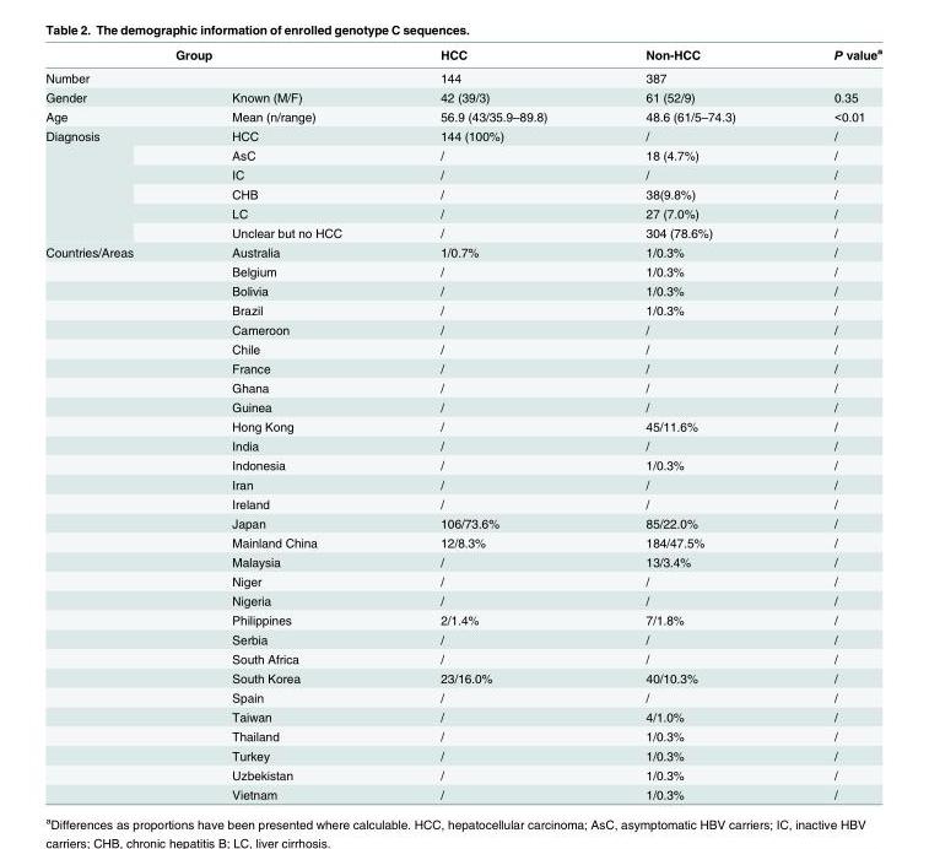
<table><thead><tr><td rowspan="2" colspan="2">Group Number</td><td rowspan="3">HCC 144 42 (39/3)</td><td rowspan="3">Non-HCC 387 61 (52/9)</td><td rowspan="3">P value<sup>a</sup> 0.35</td></tr><tr></tr><tr><td>Gender</td><td>Known (M/F)</td></tr></thead><tbody><tr><td>Age</td><td>Mean (n/range)</td><td>56.9 (43/35.9–89.8)</td><td>48.6 (61/5–74.3)</td><td>&lt;0.01</td></tr><tr><td rowspan="6">Diagnosis</td><td>HCC</td><td>144 (100%)</td><td>/</td><td>/</td></tr><tr><td>AsC</td><td>/</td><td>18 (4.7%)</td><td>/</td></tr><tr><td>IC</td><td>/</td><td>/</td><td>/</td></tr><tr><td>CHB</td><td>/</td><td>38(9.8%)</td><td>/</td></tr><tr><td>LC</td><td>/</td><td>27 (7.0%)</td><td>/</td></tr><tr><td>Unclear but no HCC</td><td>/</td><td>304 (78.6%)</td><td>/</td></tr><tr><td rowspan="29">Countries/Areas</td><td>Australia</td><td>1/0.7%</td><td>1/0.3%</td><td>/</td></tr><tr><td>Belgium</td><td>/</td><td>1/0.3%</td><td>/</td></tr><tr><td>Bolivia</td><td>/</td><td>1/0.3%</td><td>/</td></tr><tr><td>Brazil</td><td>/</td><td>1/0.3%</td><td>/</td></tr><tr><td>Cameroon</td><td>/</td><td>/</td><td>/</td></tr><tr><td>Chile</td><td>/</td><td>/</td><td>/</td></tr><tr><td>France</td><td>/</td><td>/</td><td>/</td></tr><tr><td>Ghana</td><td>/</td><td>/</td><td>/</td></tr><tr><td>Guinea</td><td>/</td><td>/</td><td>/</td></tr><tr><td>Hong Kong</td><td>/</td><td>45/11.6%</td><td>/</td></tr><tr><td>India</td><td>/</td><td>/</td><td>/</td></tr><tr><td>Indonesia</td><td>/</td><td>1/0.3%</td><td>/</td></tr><tr><td>Iran</td><td>/</td><td>/</td><td>/</td></tr><tr><td>Ireland</td><td>/</td><td>/</td><td>/</td></tr><tr><td>Japan</td><td>106/73.6%</td><td>85/22.0%</td><td>/</td></tr><tr><td>Mainland China</td><td>12/8.3%</td><td>184/47.5%</td><td>/</td></tr><tr><td>Malaysia</td><td>/</td><td>13/3.4%</td><td>/</td></tr><tr><td>Niger</td><td>/</td><td>/</td><td>/</td></tr><tr><td>Nigeria</td><td>/</td><td>/</td><td>/</td></tr><tr><td>Philippines</td><td>2/1.4%</td><td>7/1.8%</td><td>/</td></tr><tr><td>Serbia</td><td>/</td><td>/</td><td>/</td></tr><tr><td>South Africa</td><td>/</td><td>/</td><td>/</td></tr><tr><td>South Korea</td><td>23/16.0%</td><td>40/10.3%</td><td>/</td></tr><tr><td>Spain</td><td>/</td><td>/</td><td>/</td></tr><tr><td>Taiwan</td><td>/</td><td>4/1.0%</td><td>/</td></tr><tr><td>Thailand</td><td>/</td><td>1/0.3%</td><td>/</td></tr><tr><td>Turkey</td><td>/</td><td>1/0.3%</td><td>/</td></tr><tr><td>Uzbekistan</td><td>/</td><td>1/0.3%</td><td>/</td></tr><tr><td>Vietnam</td><td>/</td><td>1/0.3%</td><td>/</td></tr></tbody></table>